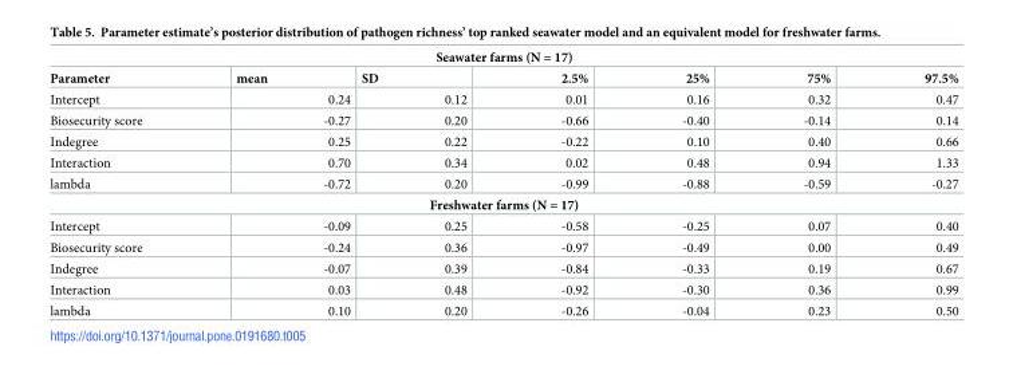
<table><tbody><tr><td colspan="7">Seawater farms (N = 17)</td></tr><tr><td>Parameter</td><td>mean</td><td>SD</td><td>2.5%</td><td>25%</td><td>75%</td><td>97.5%</td></tr><tr><td>Intercept</td><td>0.24</td><td>0.12</td><td>0.01</td><td>0.16</td><td>0.32</td><td>0.47</td></tr><tr><td>Biosecurity score</td><td>-0.27</td><td>0.20</td><td>-0.66</td><td>-0.40</td><td>-0.14</td><td>0.14</td></tr><tr><td>Indegree</td><td>0.25</td><td>0.22</td><td>-0.22</td><td>0.10</td><td>0.40</td><td>0.66</td></tr><tr><td>Interaction</td><td>0.70</td><td>0.34</td><td>0.02</td><td>0.48</td><td>0.94</td><td>1.33</td></tr><tr><td>lambda</td><td>-0.72</td><td>0.20</td><td>-0.99</td><td>-0.88</td><td>-0.59</td><td>-0.27</td></tr><tr><td colspan="7">Freshwater farms (N = 17)</td></tr><tr><td>Intercept</td><td>-0.09</td><td>0.25</td><td>-0.58</td><td>-0.25</td><td>0.07</td><td>0.40</td></tr><tr><td>Biosecurity score</td><td>-0.24</td><td>0.36</td><td>-0.97</td><td>-0.49</td><td>0.00</td><td>0.49</td></tr><tr><td>Indegree</td><td>-0.07</td><td>0.39</td><td>-0.84</td><td>-0.33</td><td>0.19</td><td>0.67</td></tr><tr><td>Interaction</td><td>0.03</td><td>0.48</td><td>-0.92</td><td>-0.30</td><td>0.36</td><td>0.99</td></tr><tr><td>lambda</td><td>0.10</td><td>0.20</td><td>-0.26</td><td>-0.04</td><td>0.23</td><td>0.50</td></tr></tbody></table>